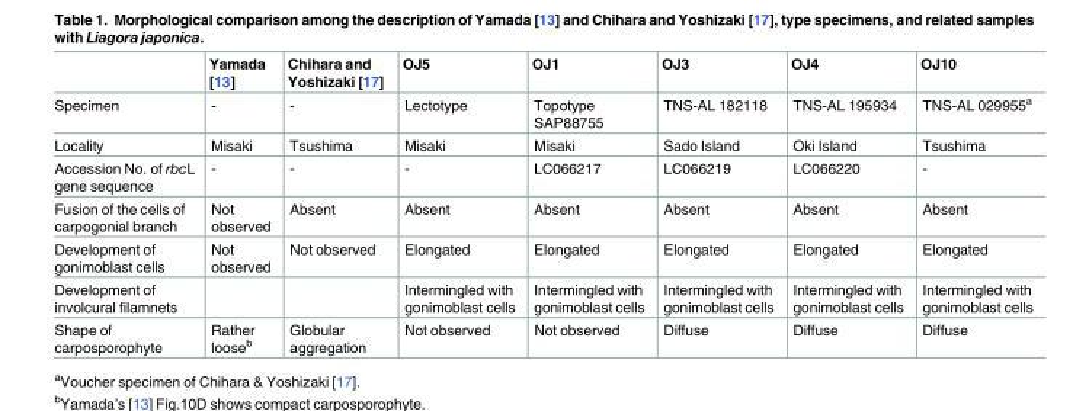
<table><thead><tr><td></td><td>Yamada [13]</td><td>Chihara and Yoshizaki [17]</td><td>OJ5</td><td>OJ1</td><td>OJ3</td><td>OJ4</td><td>OJ10</td></tr></thead><tbody><tr><td>Specimen</td><td>-</td><td>-</td><td>Lectotype</td><td>Topotype SAP88755</td><td>TNS-AL 182118</td><td>TNS-AL 195934</td><td>TNS-AL 029955<sup>a</sup></td></tr><tr><td>Locality</td><td>Misaki</td><td>Tsushima</td><td>Misaki</td><td>Misaki</td><td>Sado Island</td><td>Oki Island</td><td>Tsushima</td></tr><tr><td>Accession No. of rbcL gene sequence</td><td>-</td><td>-</td><td>-</td><td>LC066217</td><td>LC066219</td><td>LC066220</td><td>-</td></tr><tr><td>Fusion of the cells of carpogonial branch</td><td>Not observed</td><td>Absent</td><td>Absent</td><td>Absent</td><td>Absent</td><td>Absent</td><td>Absent</td></tr><tr><td>Development of gonimoblast cells</td><td>Not observed</td><td>Not observed</td><td>Elongated</td><td>Elongated</td><td>Elongated</td><td>Elongated</td><td>Elongated</td></tr><tr><td>Development of involcural filamnets</td><td></td><td></td><td>Intermingled with gonimoblast cells</td><td>Intermingled with gonimoblast cells</td><td>Intermingled with gonimoblast cells</td><td>Intermingled with gonimoblast cells</td><td>Intermingled with gonimoblast cells</td></tr><tr><td>Shape of carposporophyte</td><td>Rather loose<sup>b</sup></td><td>Globular aggregation</td><td>Not observed</td><td>Not observed</td><td>Diffuse</td><td>Diffuse</td><td>Diffuse</td></tr></tbody></table>